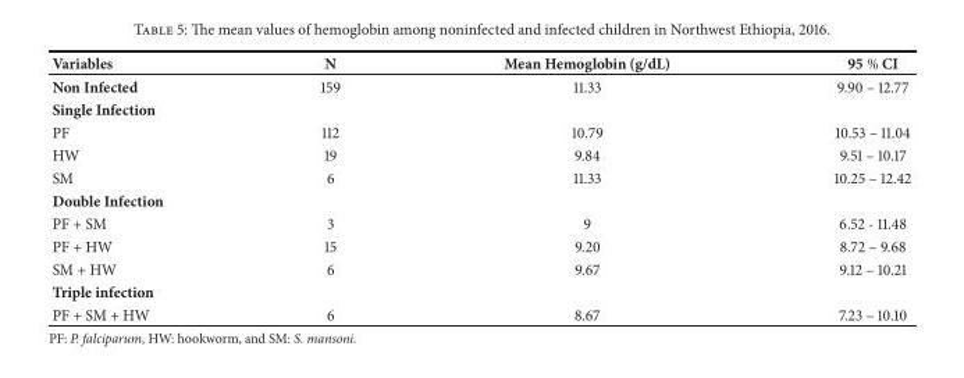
<table><thead><tr><td>Variables</td><td>N</td><td>Mean Hemoglobin (g/dL)</td><td>95 % CI</td></tr></thead><tbody><tr><td>Non Infected</td><td>159</td><td>11.33</td><td>9.90 – 12.77</td></tr><tr><td colspan="4">Single Infection</td></tr><tr><td>PF</td><td>112</td><td>10.79</td><td>10.53 – 11.04</td></tr><tr><td>HW</td><td>19</td><td>9.84</td><td>9.51 – 10.17</td></tr><tr><td>SM</td><td>6</td><td>11.33</td><td>10.25 – 12.42</td></tr><tr><td colspan="4">Double Infection</td></tr><tr><td>PF + SM</td><td>3</td><td>9</td><td>6.52 - 11.48</td></tr><tr><td>PF + HW</td><td>15</td><td>9.20</td><td>8.72 – 9.68</td></tr><tr><td>SM + HW</td><td>6</td><td>9.67</td><td>9.12 – 10.21</td></tr><tr><td colspan="4">Triple infection</td></tr><tr><td>PF + SM + HW</td><td>6</td><td>8.67</td><td>7.23 – 10.10</td></tr></tbody></table>